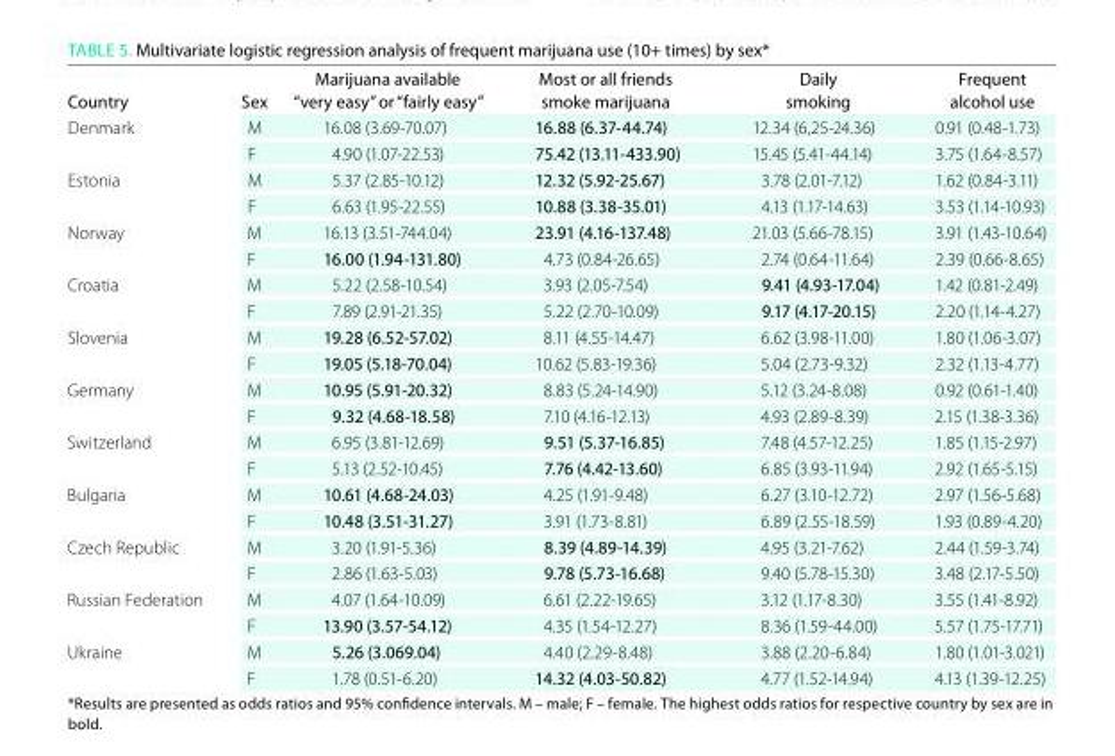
<table><thead><tr><td>Country</td><td>sex</td><td>Marijuana available “very easy” or “fairly easy”</td><td>Most or all friends smoke marijuana</td><td>daily smoking</td><td>Frequent alcohol use</td></tr></thead><tbody><tr><td rowspan="2">Denmark</td><td>M</td><td>16.08 (3.69-70.07)</td><td>16.88 (6.37-44.74)</td><td>12.34 (6,25-24.36)</td><td>0.91 (0.48-1.73)</td></tr><tr><td>F</td><td>4.90 (1.07-22.53)</td><td>75.42 (13.11-433.90)</td><td>15.45 (5.41-44.14)</td><td>3.75 (1.64-8.57)</td></tr><tr><td rowspan="2">Estonia</td><td>M</td><td>5.37 (2.85-10.12)</td><td>12.32 (5.92-25.67)</td><td>3.78 (2.01-7.12)</td><td>1.62 (0.84-3.11)</td></tr><tr><td>F</td><td>6.63 (1.95-22.55)</td><td>10.88 (3.38-35.01)</td><td>4.13 (1.17-14.63)</td><td>3.53 (1.14-10.93)</td></tr><tr><td rowspan="2">Norway</td><td>M</td><td>16.13 (3.51-744.04)</td><td>23.91 (4.16-137.48)</td><td>21.03 (5.66-78.15)</td><td>3.91 (1.43-10.64)</td></tr><tr><td>F</td><td>16.00 (1.94-131.80)</td><td>4.73 (0.84-26.65)</td><td>2.74 (0.64-11.64)</td><td>2.39 (0.66-8.65)</td></tr><tr><td rowspan="2">Croatia</td><td>M</td><td>5.22 (2.58-10.54)</td><td>3.93 (2.05-7.54)</td><td>9.41 (4.93-17.04)</td><td>1.42 (0.81-2.49)</td></tr><tr><td>F</td><td>7.89 (2.91-21.35)</td><td>5.22 (2.70-10.09)</td><td>9.17 (4.17-20.15)</td><td>2.20 (1.14-4.27)</td></tr><tr><td rowspan="2">Slovenia</td><td>M</td><td>19.28 (6.52-57.02)</td><td>8.11 (4.55-14.47)</td><td>6.62 (3.98-11.00)</td><td>1.80 (1.06-3.07)</td></tr><tr><td>F</td><td>19.05 (5.18-70.04)</td><td>10.62 (5.83-19.36)</td><td>5.04 (2.73-9.32)</td><td>2.32 (1.13-4.77)</td></tr><tr><td rowspan="2">Germany</td><td>M</td><td>10.95 (5.91-20.32)</td><td>8.83 (5.24-14.90)</td><td>5.12 (3.24-8.08)</td><td>0.92 (0.61-1.40)</td></tr><tr><td>F</td><td>9.32 (4.68-18.58)</td><td>7.10 (4.16-12.13)</td><td>4.93 (2.89-8.39)</td><td>2.15 (1.38-3.36)</td></tr><tr><td rowspan="2">Switzerland</td><td>M</td><td>6.95 (3.81-12.69)</td><td>9.51 (5.37-16.85)</td><td>7.48 (4.57-12.25)</td><td>1.85 (1.15-2.97)</td></tr><tr><td>F</td><td>5.13 (2.52-10.45)</td><td>7.76 (4.42-13.60)</td><td>6.85 (3.93-11.94)</td><td>2.92 (1.65-5.15)</td></tr><tr><td rowspan="2">Bulgaria</td><td>M</td><td>10.61 (4.68-24.03)</td><td>4.25 (1.91-9.48)</td><td>6.27 (3.10-12.72)</td><td>2.97 (1.56-5.68)</td></tr><tr><td>F</td><td>10.48 (3.51-31.27)</td><td>3.91 (1.73-8.81)</td><td>6.89 (2.55-18.59)</td><td>1.93 (0.89-4.20)</td></tr><tr><td rowspan="2">Czech Republic</td><td>M</td><td>3.20 (1.91-5.36)</td><td>8.39 (4.89-14.39)</td><td>4.95 (3.21-7.62)</td><td>2.44 (1.59-3.74)</td></tr><tr><td>F</td><td>2.86 (1.63-5.03)</td><td>9.78 (5.73-16.68)</td><td>9.40 (5.78-15.30)</td><td>3.48 (2.17-5.50)</td></tr><tr><td rowspan="2">Russian Federation</td><td>M</td><td>4.07 (1.64-10.09)</td><td>6.61 (2.22-19.65)</td><td>3.12 (1.17-8.30)</td><td>3.55 (1.41-8.92)</td></tr><tr><td>F</td><td>13.90 (3.57-54.12)</td><td>4.35 (1.54-12.27)</td><td>8.36 (1.59-44.00)</td><td>5.57 (1.75-17.71)</td></tr><tr><td rowspan="2">Ukraine</td><td>M</td><td>5.26 (3.069.04)</td><td>4.40 (2.29-8.48)</td><td>3.88 (2.20-6.84)</td><td>1.80 (1.01-3.021)</td></tr><tr><td>F</td><td>1.78 (0.51-6.20)</td><td>14.32 (4.03-50.82)</td><td>4.77 (1.52-14.94)</td><td>4.13 (1.39-12.25)</td></tr></tbody></table>